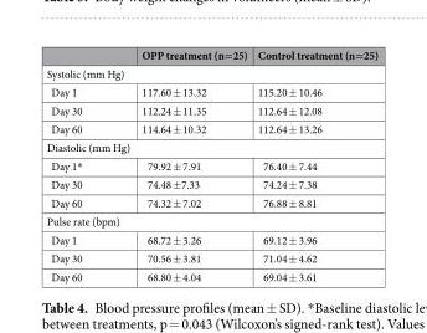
<table><thead><tr><td></td><td>OPP treatment (n=25)</td><td>Control treatment (n=25)</td></tr></thead><tbody><tr><td colspan="3">Systolic (mm Hg)</td></tr><tr><td>Day 1</td><td>117.60 ± 13.32</td><td>115.20 ± 10.46</td></tr><tr><td>Day 30</td><td>112.24 ± 11.35</td><td>112.64 ± 12.08</td></tr><tr><td>Day 60</td><td>114.64 ± 10.32</td><td>112.64 ± 13.26</td></tr><tr><td colspan="3">Diastolic (mm Hg)</td></tr><tr><td>Day 1*</td><td>79.92 ± 7.91</td><td>76.40 ± 7.44</td></tr><tr><td>Day 30</td><td>74.48 ±7.33</td><td>74.24 ± 7.38</td></tr><tr><td>Day 60</td><td>74.32 ± 7.02</td><td>76.88 ± 8.81</td></tr><tr><td colspan="3">Pulse rate (bpm)</td></tr><tr><td>Day 1</td><td>68.72 ± 3.26</td><td>69.12 ± 3.96</td></tr><tr><td>Day 30</td><td>70.56 ± 3.81</td><td>71.04 ± 4.62</td></tr><tr><td>Day 60</td><td>68.80 ± 4.04</td><td>69.04 ± 3.61</td></tr></tbody></table>